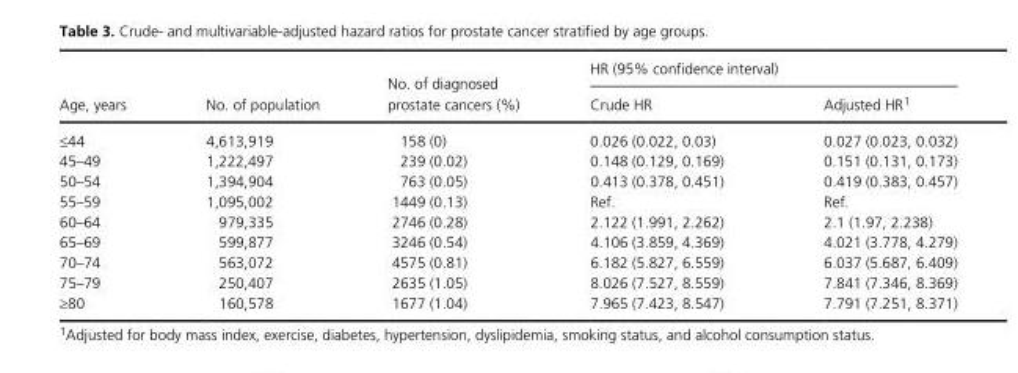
<table><thead><tr><td rowspan="2">Age, years</td><td rowspan="2">No. of population</td><td rowspan="2">No. of diagnosed prostate cancers (%)</td><td colspan="2">HR (95% confidence interval)</td></tr><tr><td>Crude HR</td><td>Adjusted HR1</td></tr></thead><tbody><tr><td>≤44</td><td>4,613,919</td><td>158 (0)</td><td>0.026 (0.022, 0.03)</td><td>0.027 (0.023, 0.032)</td></tr><tr><td>45–49</td><td>1,222,497</td><td>239 (0.02)</td><td>0.148 (0.129, 0.169)</td><td>0.151 (0.131, 0.173)</td></tr><tr><td>50–54</td><td>1,394,904</td><td>763 (0.05)</td><td>0.413 (0.378, 0.451)</td><td>0.419 (0.383, 0.457)</td></tr><tr><td>55–59</td><td>1,095,002</td><td>1449 (0.13)</td><td>Ref.</td><td>Ref.</td></tr><tr><td>60–64</td><td>979,335</td><td>2746 (0.28)</td><td>2.122 (1.991, 2.262)</td><td>2.1 (1.97, 2.238)</td></tr><tr><td>65–69</td><td>599,877</td><td>3246 (0.54)</td><td>4.106 (3.859, 4.369)</td><td>4.021 (3.778, 4.279)</td></tr><tr><td>70–74</td><td>563,072</td><td>4575 (0.81)</td><td>6.182 (5.827, 6.559)</td><td>6.037 (5.687, 6.409)</td></tr><tr><td>75–79</td><td>250,407</td><td>2635 (1.05)</td><td>8.026 (7.527, 8.559)</td><td>7.841 (7.346, 8.369)</td></tr><tr><td>≥80</td><td>160,578</td><td>1677 (1.04)</td><td>7.965 (7.423, 8.547)</td><td>7.791 (7.251, 8.371)</td></tr></tbody></table>